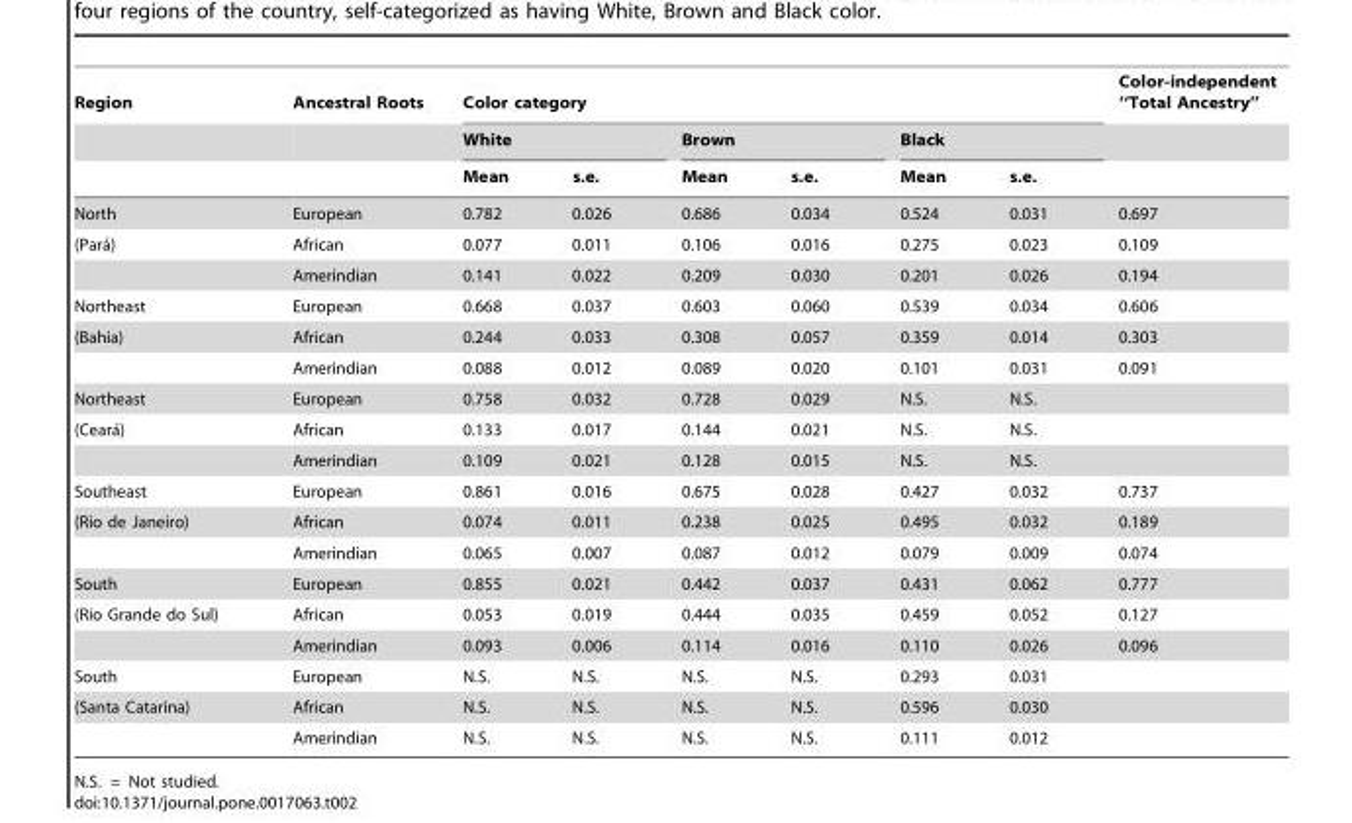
<table><thead><tr><td rowspan="3">Region</td><td rowspan="3">Ancestral Roots</td><td colspan="6">Color category</td><td rowspan="3">Color-independent ‘‘Total Ancestry’’</td></tr><tr><td colspan="2">White</td><td colspan="2">Brown</td><td colspan="2">Black</td></tr><tr><td>Mean</td><td>s.e.</td><td>Mean</td><td>s.e.</td><td>Mean</td><td>s.e.</td></tr></thead><tbody><tr><td>North</td><td>European</td><td>0.782</td><td>0.026</td><td>0.686</td><td>0.034</td><td>0.524</td><td>0.031</td><td>0.697</td></tr><tr><td rowspan="2">(Para´)</td><td>African</td><td>0.077</td><td>0.011</td><td>0.106</td><td>0.016</td><td>0.275</td><td>0.023</td><td>0.109</td></tr><tr><td>Amerindian</td><td>0.141</td><td>0.022</td><td>0.209</td><td>0.030</td><td>0.201</td><td>0.026</td><td>0.194</td></tr><tr><td>Northeast</td><td>European</td><td>0.668</td><td>0.037</td><td>0.603</td><td>0.060</td><td>0.539</td><td>0.034</td><td>0.606</td></tr><tr><td rowspan="2">(Bahia)</td><td>African</td><td>0.244</td><td>0.033</td><td>0.308</td><td>0.057</td><td>0.359</td><td>0.014</td><td>0.303</td></tr><tr><td>Amerindian</td><td>0.088</td><td>0.012</td><td>0.089</td><td>0.020</td><td>0.101</td><td>0.031</td><td>0.091</td></tr><tr><td>Northeast</td><td>European</td><td>0.758</td><td>0.032</td><td>0.728</td><td>0.029</td><td>N.S.</td><td>N.S.</td><td></td></tr><tr><td rowspan="2">(Ceara´)</td><td>African</td><td>0.133</td><td>0.017</td><td>0.144</td><td>0.021</td><td>N.S.</td><td>N.S.</td><td></td></tr><tr><td>Amerindian</td><td>0.109</td><td>0.021</td><td>0.128</td><td>0.015</td><td>N.S.</td><td>N.S.</td><td></td></tr><tr><td>Southeast</td><td>European</td><td>0.861</td><td>0.016</td><td>0.675</td><td>0.028</td><td>0.427</td><td>0.032</td><td>0.737</td></tr><tr><td rowspan="2">(Rio de Janeiro)</td><td>African</td><td>0.074</td><td>0.011</td><td>0.238</td><td>0.025</td><td>0.495</td><td>0.032</td><td>0.189</td></tr><tr><td>Amerindian</td><td>0.065</td><td>0.007</td><td>0.087</td><td>0.012</td><td>0.079</td><td>0.009</td><td>0.074</td></tr><tr><td>South</td><td>European</td><td>0.855</td><td>0.021</td><td>0.442</td><td>0.037</td><td>0.431</td><td>0.062</td><td>0.777</td></tr><tr><td rowspan="2">(Rio Grande do Sul)</td><td>African</td><td>0.053</td><td>0.019</td><td>0.444</td><td>0.035</td><td>0.459</td><td>0.052</td><td>0.127</td></tr><tr><td>Amerindian</td><td>0.093</td><td>0.006</td><td>0.114</td><td>0.016</td><td>0.110</td><td>0.026</td><td>0.096</td></tr><tr><td>South</td><td>European</td><td>N.S.</td><td>N.S.</td><td>N.S.</td><td>N.S.</td><td>0.293</td><td>0.031</td><td></td></tr><tr><td rowspan="2">(Santa Catarina)</td><td>African</td><td>N.S.</td><td>N.S.</td><td>N.S.</td><td>N.S.</td><td>0.596</td><td>0.030</td><td></td></tr><tr><td>Amerindian</td><td>N.S.</td><td>N.S.</td><td>N.S.</td><td>N.S.</td><td>0.111</td><td>0.012</td><td></td></tr></tbody></table>